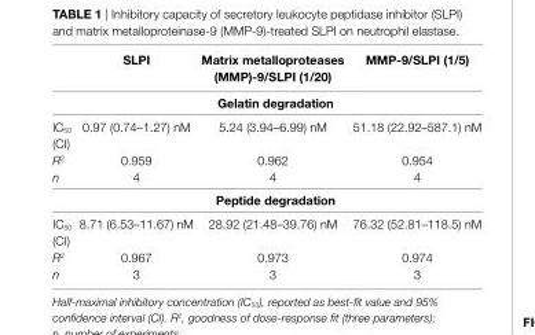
<table><thead><tr><td></td><td>slPi</td><td>Matrix metalloproteases (MMP)-9/slPi (1/20)</td><td>MMP-9/slPi (1/5)</td></tr></thead><tbody><tr><td></td><td colspan="3">gelatin degradation</td></tr><tr><td>IC<sub>50</sub> (CI)</td><td>0.97 (0.74–1.27) nM</td><td>5.24 (3.94–6.99) nM</td><td>51.18 (22.92–587.1) nM</td></tr><tr><td>R<sup>2</sup></td><td>0.959</td><td>0.962</td><td>0.954</td></tr><tr><td rowspan="2">n</td><td>4</td><td>4</td><td>4</td></tr><tr><td colspan="3">Peptide degradation</td></tr><tr><td>IC<sub>50</sub> (CI)</td><td>8.71 (6.53–11.67) nM</td><td>28.92 (21.48–39.76) nM</td><td>76.32 (52.81–118.5) nM</td></tr><tr><td>R<sup>2</sup></td><td>0.967</td><td>0.973</td><td>0.974</td></tr><tr><td>n</td><td>3</td><td>3</td><td>3</td></tr></tbody></table>